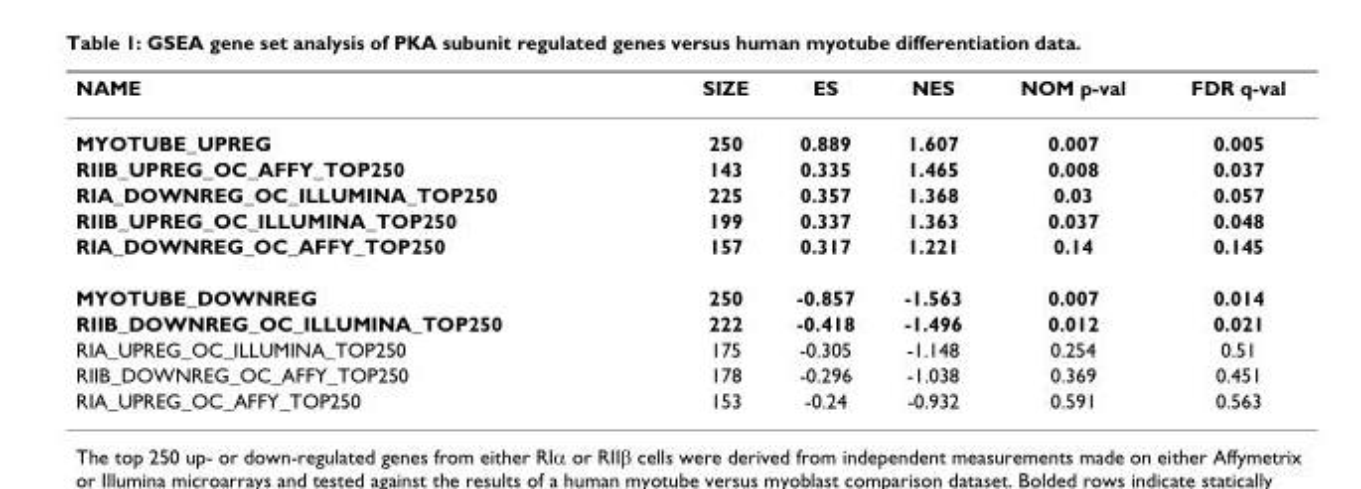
<table><thead><tr><td>NAME</td><td>SIZE</td><td>ES</td><td>NES</td><td>NOM p-val</td><td>FDR q-val</td></tr></thead><tbody><tr><td>MYOTUBE_UPREG</td><td>250</td><td>0.889</td><td>1.607</td><td>0.007</td><td>0.005</td></tr><tr><td>RIIB_UPREG_OC_AFFY_TOP250</td><td>143</td><td>0.335</td><td>1.465</td><td>0.008</td><td>0.037</td></tr><tr><td>RIA_DOWNREG_OC_ILLUMINA_TOP250</td><td>225</td><td>0.357</td><td>1.368</td><td>0.03</td><td>0.057</td></tr><tr><td>RIIB_UPREG_OC_ILLUMINA_TOP250</td><td>199</td><td>0.337</td><td>1.363</td><td>0.037</td><td>0.048</td></tr><tr><td>RIA_DOWNREG_OC_AFFY_TOP250</td><td>157</td><td>0.317</td><td>1.221</td><td>0.14</td><td>0.145</td></tr><tr><td>MYOTUBE_DOWNREG</td><td>250</td><td>-0.857</td><td>-1.563</td><td>0.007</td><td>0.014</td></tr><tr><td>RIIB_DOWNREG_OC_ILLUMINA_TOP250</td><td>222</td><td>-0.418</td><td>-1.496</td><td>0.012</td><td>0.021</td></tr><tr><td>RIA_UPREG_OC_ILLUMINA_TOP250</td><td>175</td><td>-0.305</td><td>-1.148</td><td>0.254</td><td>0.51</td></tr><tr><td>RIIB_DOWNREG_OC_AFFY_TOP250</td><td>178</td><td>-0.296</td><td>-1.038</td><td>0.369</td><td>0.451</td></tr><tr><td>RIA_UPREG_OC_AFFY_TOP250</td><td>153</td><td>-0.24</td><td>-0.932</td><td>0.591</td><td>0.563</td></tr></tbody></table>